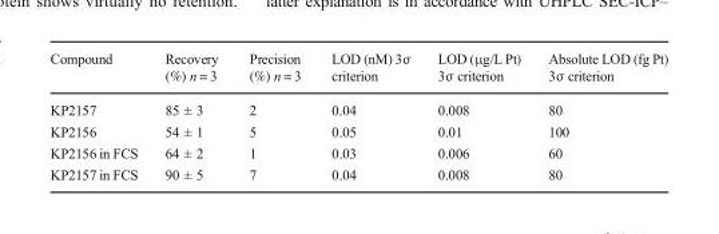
<table><thead><tr><td>Compound</td><td>Recovery (%) n = 3</td><td>Precision (%) n = 3</td><td>LOD (nM) 3σ criterion</td><td>LOD (μg/L Pt) 3σ criterion</td><td>Absolute LOD (fg Pt) 3σ criterion</td></tr></thead><tbody><tr><td>KP2157</td><td>85 ± 3</td><td>2</td><td>0.04</td><td>0.008</td><td>80</td></tr><tr><td>KP2156</td><td>54 ± 1</td><td>5</td><td>0.05</td><td>0.01</td><td>100</td></tr><tr><td>KP2156 in FCS</td><td>64 ± 2</td><td>1</td><td>0.03</td><td>0.006</td><td>60</td></tr><tr><td>KP2157 in FCS</td><td>90 ± 5</td><td>7</td><td>0.04</td><td>0.008</td><td>80</td></tr></tbody></table>